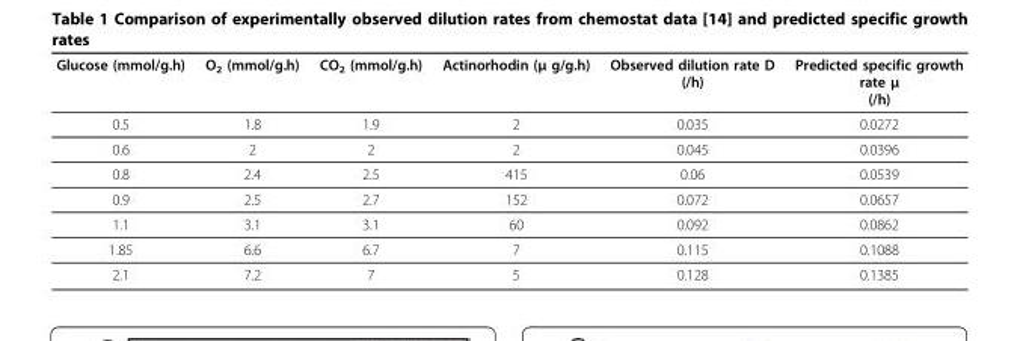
<table><thead><tr><td>Glucose (mmol/g.h)</td><td>O<sub>2</sub> (mmol/g.h)</td><td>CO<sub>2</sub> (mmol/g.h)</td><td>Actinorhodin (μ g/g.h)</td><td>Observed dilution rate D (/h)</td><td>Predicted specific growth rate μ (/h)</td></tr></thead><tbody><tr><td>0.5</td><td>1.8</td><td>1.9</td><td>2</td><td>0.035</td><td>0.0272</td></tr><tr><td>0.6</td><td>2</td><td>2</td><td>2</td><td>0.045</td><td>0.0396</td></tr><tr><td>0.8</td><td>2.4</td><td>2.5</td><td>415</td><td>0.06</td><td>0.0539</td></tr><tr><td>0.9</td><td>2.5</td><td>2.7</td><td>152</td><td>0.072</td><td>0.0657</td></tr><tr><td>1.1</td><td>3.1</td><td>3.1</td><td>60</td><td>0.092</td><td>0.0862</td></tr><tr><td>1.85</td><td>6.6</td><td>6.7</td><td>7</td><td>0.115</td><td>0.1088</td></tr><tr><td>2.1</td><td>7.2</td><td>7</td><td>5</td><td>0.128</td><td>0.1385</td></tr></tbody></table>